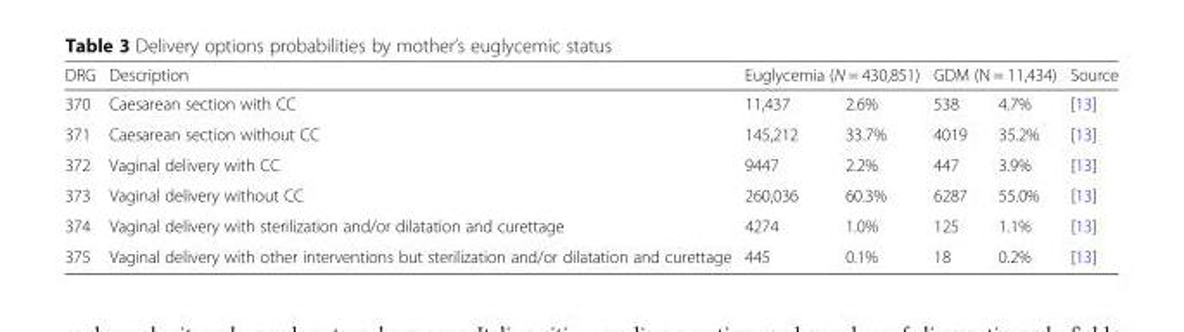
<table><thead><tr><td rowspan="2">DRG 370</td><td rowspan="2">Description Caesarean section with CC</td><td colspan="2">Euglycemia (N = 430,851)</td><td colspan="2">GDM (N = 11,434)</td><td rowspan="2">Source [13]</td></tr><tr><td>11,437</td><td>2.6%</td><td>538</td><td>4.7%</td></tr></thead><tbody><tr><td>371</td><td>Caesarean section without CC</td><td>145,212</td><td>33.7%</td><td>4019</td><td>35.2%</td><td>[13]</td></tr><tr><td>372</td><td>Vaginal delivery with CC</td><td>9447</td><td>2.2%</td><td>447</td><td>3.9%</td><td>[13]</td></tr><tr><td>373</td><td>Vaginal delivery without CC</td><td>260,036</td><td>60.3%</td><td>6287</td><td>55.0%</td><td>[13]</td></tr><tr><td>374</td><td>Vaginal delivery with sterilization and/or dilatation and curettage</td><td>4274</td><td>1.0%</td><td>125</td><td>1.1%</td><td>[13]</td></tr><tr><td>375</td><td>Vaginal delivery with other interventions but sterilization and/or dilatation and curettage</td><td>445</td><td>0.1%</td><td>18</td><td>0.2%</td><td>[13]</td></tr></tbody></table>